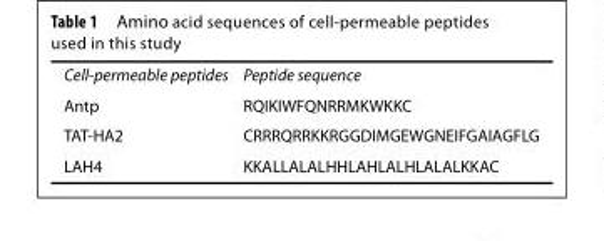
<table><thead><tr><td>Cell-permeable peptides</td><td>Peptide sequence</td></tr></thead><tbody><tr><td>Antp</td><td>RQIKIWFQNRRMKWKKC</td></tr><tr><td>TAT-HA2</td><td>CRRRQRRKKRGGDIMGEWGNEIFGAIAGFLG</td></tr><tr><td>LAH4</td><td>KKALLALALHHLAHLALHLALALKKAC</td></tr></tbody></table>